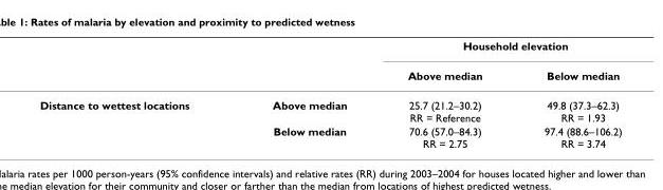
<table><thead><tr><td rowspan="2"></td><td rowspan="2"></td><td colspan="2">Household elevation</td></tr><tr><td>Above median</td><td>Below median</td></tr></thead><tbody><tr><td rowspan="2">Distance to wettest locations</td><td>Above median</td><td>25.7 (21.2–30.2) RR = Reference</td><td>49.8 (37.3–62.3) RR = 1.93</td></tr><tr><td>Below median</td><td>70.6 (57.0–84.3) RR = 2.75</td><td>97.4 (88.6–106.2) RR = 3.74</td></tr></tbody></table>